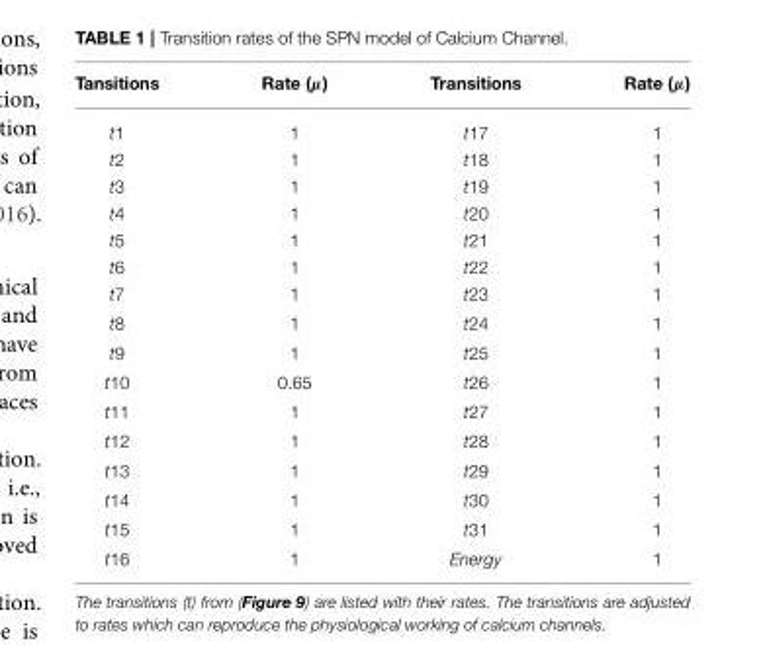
<table><thead><tr><td>Tansitions</td><td>Rate (µ)</td><td>Transitions</td><td>Rate (µ)</td></tr></thead><tbody><tr><td>t1</td><td>1</td><td>t17</td><td>1</td></tr><tr><td>t2</td><td>1</td><td>t18</td><td>1</td></tr><tr><td>t3</td><td>1</td><td>t19</td><td>1</td></tr><tr><td>t4</td><td>1</td><td>t20</td><td>1</td></tr><tr><td>t5</td><td>1</td><td>t21</td><td>1</td></tr><tr><td>t6</td><td>1</td><td>t22</td><td>1</td></tr><tr><td>t7</td><td>1</td><td>t23</td><td>1</td></tr><tr><td>t8</td><td>1</td><td>t24</td><td>1</td></tr><tr><td>t9</td><td>1</td><td>t25</td><td>1</td></tr><tr><td>t10</td><td>0.65</td><td>t26</td><td>1</td></tr><tr><td>t11</td><td>1</td><td>t27</td><td>1</td></tr><tr><td>t12</td><td>1</td><td>t28</td><td>1</td></tr><tr><td>t13</td><td>1</td><td>t29</td><td>1</td></tr><tr><td>t14</td><td>1</td><td>t30</td><td>1</td></tr><tr><td>t15</td><td>1</td><td>t31</td><td>1</td></tr><tr><td>t16</td><td>1</td><td>Energy</td><td>1</td></tr></tbody></table>